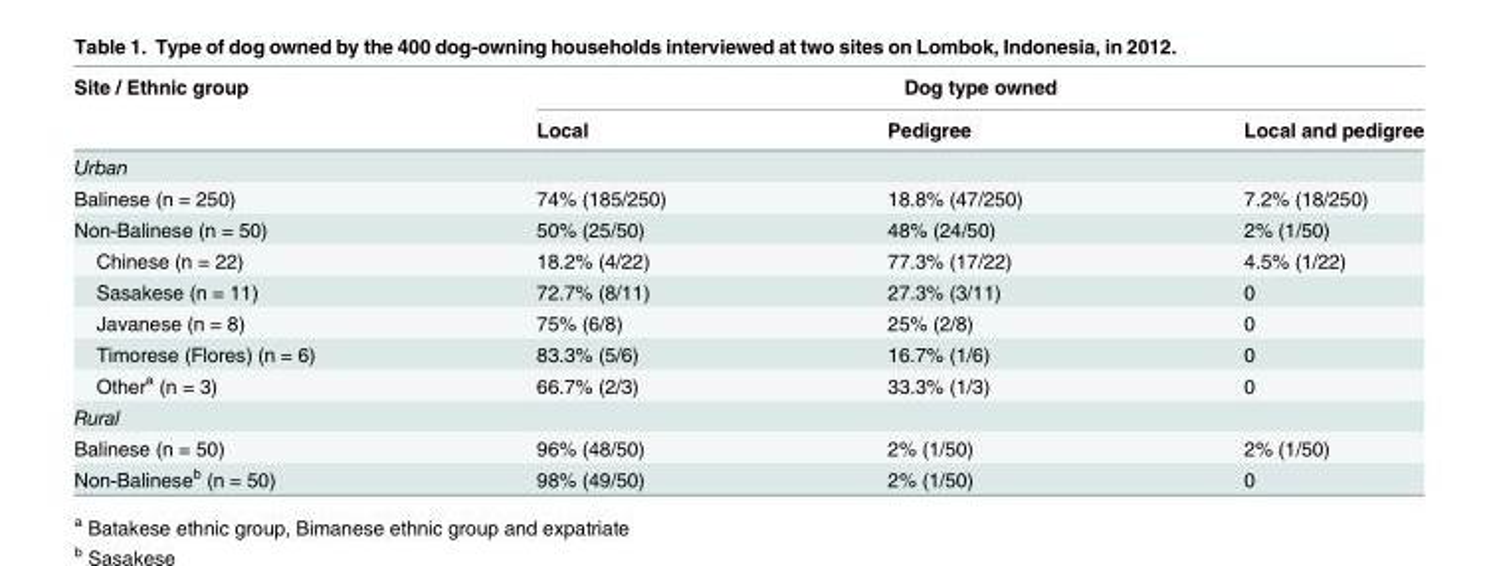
<table><thead><tr><td rowspan="2">Site / Ethnic group</td><td colspan="3">Dog type owned</td></tr><tr><td>Local</td><td>Pedigree</td><td>Local and pedigree</td></tr></thead><tbody><tr><td colspan="4">Urban</td></tr><tr><td>Balinese (n = 250)</td><td>74% (185/250)</td><td>18.8% (47/250)</td><td>7.2% (18/250)</td></tr><tr><td>Non-Balinese (n = 50)</td><td>50% (25/50)</td><td>48% (24/50)</td><td>2% (1/50)</td></tr><tr><td>Chinese (n = 22)</td><td>18.2% (4/22)</td><td>77.3% (17/22)</td><td>4.5% (1/22)</td></tr><tr><td>Sasakese (n = 11)</td><td>72.7% (8/11)</td><td>27.3% (3/11)</td><td>0</td></tr><tr><td>Javanese (n = 8)</td><td>75% (6/8)</td><td>25% (2/8)</td><td>0</td></tr><tr><td>Timorese (Flores) (n = 6)</td><td>83.3% (5/6)</td><td>16.7% (1/6)</td><td>0</td></tr><tr><td>Other<sup>a</sup> (n = 3)</td><td>66.7% (2/3)</td><td>33.3% (1/3)</td><td>0</td></tr><tr><td colspan="4">Rural</td></tr><tr><td>Balinese (n = 50)</td><td>96% (48/50)</td><td>2% (1/50)</td><td>2% (1/50)</td></tr><tr><td>Non-Balinese<sup>b</sup> (n = 50)</td><td>98% (49/50)</td><td>2% (1/50)</td><td>0</td></tr></tbody></table>